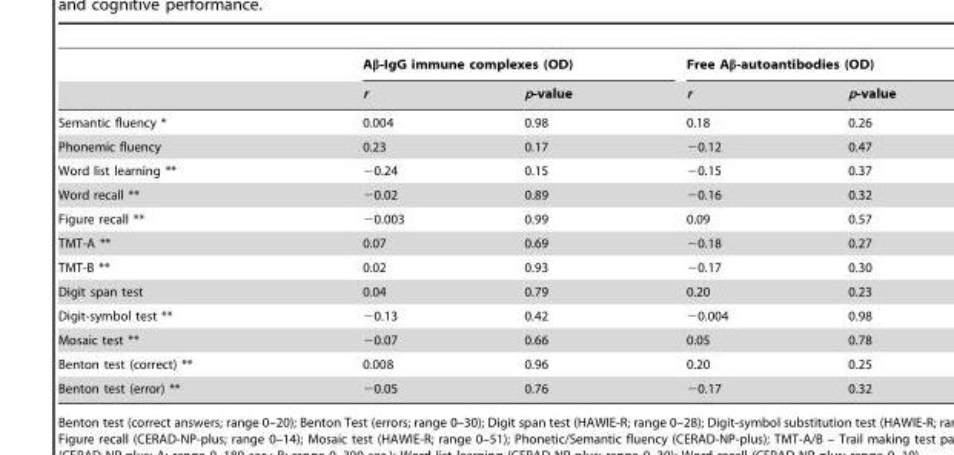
<table><thead><tr><td rowspan="2"></td><td colspan="2">Aβ-IgG immune complexes (OD)</td><td colspan="2">Free Aβ-autoantibodies (OD)</td></tr><tr><td>r</td><td>p-value</td><td>r</td><td>p-value</td></tr></thead><tbody><tr><td>Semantic fluency *</td><td>0.004</td><td>0.98</td><td>0.18</td><td>0.26</td></tr><tr><td>Phonemic fluency</td><td>0.23</td><td>0.17</td><td>−0.12</td><td>0.47</td></tr><tr><td>Word list learning **</td><td>−0.24</td><td>0.15</td><td>−0.15</td><td>0.37</td></tr><tr><td>Word recall **</td><td>−0.02</td><td>0.89</td><td>−0.16</td><td>0.32</td></tr><tr><td>Figure recall **</td><td>−0.003</td><td>0.99</td><td>0.09</td><td>0.57</td></tr><tr><td>TMT-A **</td><td>0.07</td><td>0.69</td><td>−0.18</td><td>0.27</td></tr><tr><td>TMT-B **</td><td>0.02</td><td>0.93</td><td>−0.17</td><td>0.30</td></tr><tr><td>Digit span test</td><td>0.04</td><td>0.79</td><td>0.20</td><td>0.23</td></tr><tr><td>Digit-symbol test **</td><td>−0.13</td><td>0.42</td><td>−0.004</td><td>0.98</td></tr><tr><td>Mosaic test **</td><td>−0.07</td><td>0.66</td><td>0.05</td><td>0.78</td></tr><tr><td>Benton test (correct) **</td><td>0.008</td><td>0.96</td><td>0.20</td><td>0.25</td></tr><tr><td>Benton test (error) **</td><td>−0.05</td><td>0.76</td><td>−0.17</td><td>0.32</td></tr></tbody></table>